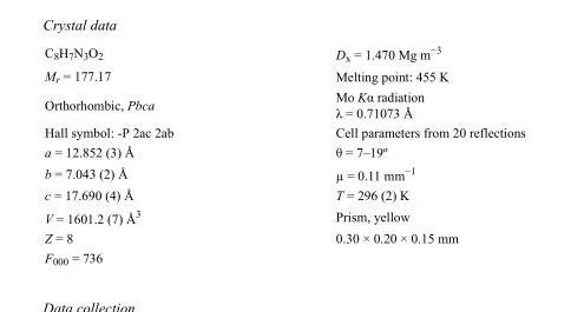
<table><tbody><tr><td>C<sub>8</sub>H<sub>7</sub>N<sub>3</sub>O<sub>2</sub></td><td>D<sub>x</sub> = 1.470 Mg m<sup>−3</sup></td></tr><tr><td>M<sub>r</sub> = 177.17</td><td>Melting point: 455 K</td></tr><tr><td>Orthorhombic, Pbca</td><td>Mo Kα radiation λ = 0.71073 Å</td></tr><tr><td>Hall symbol: -P 2ac 2ab</td><td>Cell parameters from 20 reflections</td></tr><tr><td>a = 12.852 (3) Å</td><td>θ = 7–19º</td></tr><tr><td>b = 7.043 (2) Å</td><td>µ = 0.11 mm<sup>−1</sup></td></tr><tr><td>c = 17.690 (4) Å</td><td>T = 296 (2) K</td></tr><tr><td>V = 1601.2 (7) Å<sup>3</sup></td><td>Prism, yellow</td></tr><tr><td>Z = 8</td><td>0.30 × 0.20 × 0.15 mm</td></tr><tr><td>F<sub>000</sub> = 736</td><td></td></tr></tbody></table>